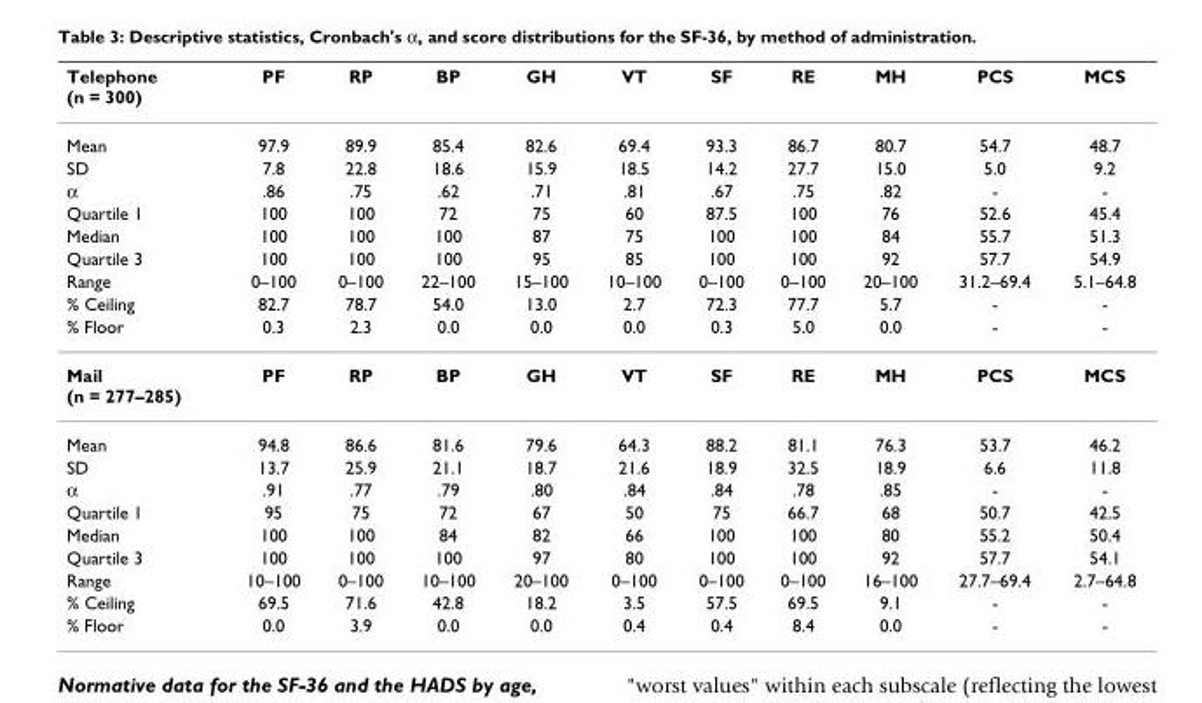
<table><thead><tr><td>Telephone (n = 300)</td><td>PF</td><td>RP</td><td>BP</td><td>GH</td><td>VT</td><td>SF</td><td>RE</td><td>MH</td><td>PCS</td><td>MCS</td></tr></thead><tbody><tr><td>Mean</td><td>97.9</td><td>89.9</td><td>85.4</td><td>82.6</td><td>69.4</td><td>93.3</td><td>86.7</td><td>80.7</td><td>54.7</td><td>48.7</td></tr><tr><td>SD</td><td>7.8</td><td>22.8</td><td>18.6</td><td>15.9</td><td>18.5</td><td>14.2</td><td>27.7</td><td>15.0</td><td>5.0</td><td>9.2</td></tr><tr><td>α</td><td>.86</td><td>.75</td><td>.62</td><td>.71</td><td>.81</td><td>.67</td><td>.75</td><td>.82</td><td>-</td><td>-</td></tr><tr><td>Quartile 1</td><td>100</td><td>100</td><td>72</td><td>75</td><td>60</td><td>87.5</td><td>100</td><td>76</td><td>52.6</td><td>45.4</td></tr><tr><td>Median</td><td>100</td><td>100</td><td>100</td><td>87</td><td>75</td><td>100</td><td>100</td><td>84</td><td>55.7</td><td>51.3</td></tr><tr><td>Quartile 3</td><td>100</td><td>100</td><td>100</td><td>95</td><td>85</td><td>100</td><td>100</td><td>92</td><td>57.7</td><td>54.9</td></tr><tr><td>Range</td><td>0–100</td><td>0–100</td><td>22–100</td><td>15–100</td><td>10–100</td><td>0–100</td><td>0–100</td><td>20–100</td><td>31.2–69.4</td><td>5.1–64.8</td></tr><tr><td>% Ceiling</td><td>82.7</td><td>78.7</td><td>54.0</td><td>13.0</td><td>2.7</td><td>72.3</td><td>77.7</td><td>5.7</td><td>-</td><td>-</td></tr><tr><td>% Floor</td><td>0.3</td><td>2.3</td><td>0.0</td><td>0.0</td><td>0.0</td><td>0.3</td><td>5.0</td><td>0.0</td><td>-</td><td>-</td></tr><tr><td>Mail (n = 277–285)</td><td>PF</td><td>RP</td><td>BP</td><td>GH</td><td>VT</td><td>SF</td><td>RE</td><td>MH</td><td>PCS</td><td>MCS</td></tr><tr><td>Mean</td><td>94.8</td><td>86.6</td><td>81.6</td><td>79.6</td><td>64.3</td><td>88.2</td><td>81.1</td><td>76.3</td><td>53.7</td><td>46.2</td></tr><tr><td>SD</td><td>13.7</td><td>25.9</td><td>21.1</td><td>18.7</td><td>21.6</td><td>18.9</td><td>32.5</td><td>18.9</td><td>6.6</td><td>11.8</td></tr><tr><td>α</td><td>.91</td><td>.77</td><td>.79</td><td>.80</td><td>.84</td><td>.84</td><td>.78</td><td>.85</td><td>-</td><td>-</td></tr><tr><td>Quartile 1</td><td>95</td><td>75</td><td>72</td><td>67</td><td>50</td><td>75</td><td>66.7</td><td>68</td><td>50.7</td><td>42.5</td></tr><tr><td>Median</td><td>100</td><td>100</td><td>84</td><td>82</td><td>66</td><td>100</td><td>100</td><td>80</td><td>55.2</td><td>50.4</td></tr><tr><td>Quartile 3</td><td>100</td><td>100</td><td>100</td><td>97</td><td>80</td><td>100</td><td>100</td><td>92</td><td>57.7</td><td>54.1</td></tr><tr><td>Range</td><td>10–100</td><td>0–100</td><td>10–100</td><td>20–100</td><td>0–100</td><td>0–100</td><td>0–100</td><td>16–100</td><td>27.7–69.4</td><td>2.7–64.8</td></tr><tr><td>% Ceiling</td><td>69.5</td><td>71.6</td><td>42.8</td><td>18.2</td><td>3.5</td><td>57.5</td><td>69.5</td><td>9.1</td><td>-</td><td>-</td></tr><tr><td>% Floor</td><td>0.0</td><td>3.9</td><td>0.0</td><td>0.0</td><td>0.4</td><td>0.4</td><td>8.4</td><td>0.0</td><td>-</td><td>-</td></tr></tbody></table>